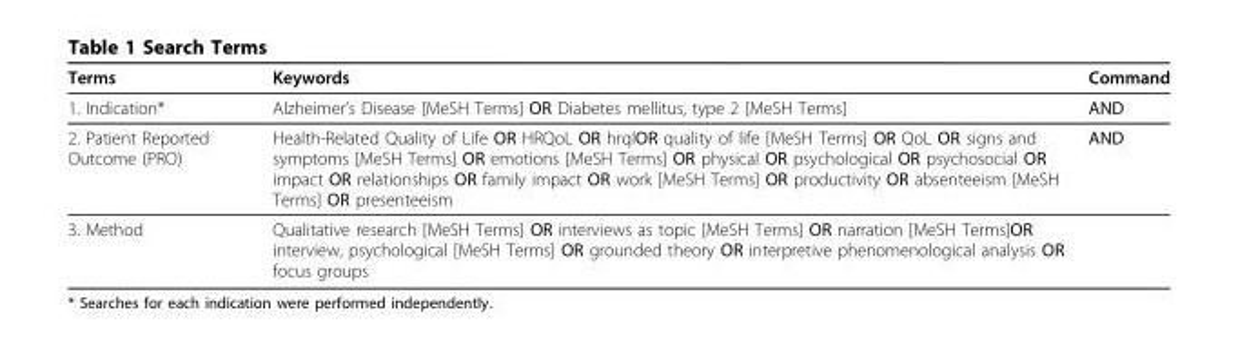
<table><thead><tr><td>Terms</td><td>Keywords</td><td>Command</td></tr></thead><tbody><tr><td>1. Indication*</td><td>Alzheimer’s Disease [MeSH Terms] OR Diabetes mellitus, type 2 [MeSH Terms]</td><td>AND</td></tr><tr><td>2. Patient Reported Outcome (PRO)</td><td>Health-Related Quality of Life OR HRQoL OR hrqlOR quality of life [MeSH Terms] OR QoL OR signs and symptoms [MeSH Terms] OR emotions [MeSH Terms] OR physical OR psychological OR psychosocial OR impact OR relationships OR family impact OR work [MeSH Terms] OR productivity OR absenteeism [MeSH Terms] OR presenteeism</td><td>AND</td></tr><tr><td>3. Method</td><td>Qualitative research [MeSH Terms] OR interviews as topic [MeSH Terms] OR narration [MeSH Terms]OR interview, psychological [MeSH Terms] OR grounded theory OR interpretive phenomenological analysis OR focus groups</td><td></td></tr></tbody></table>